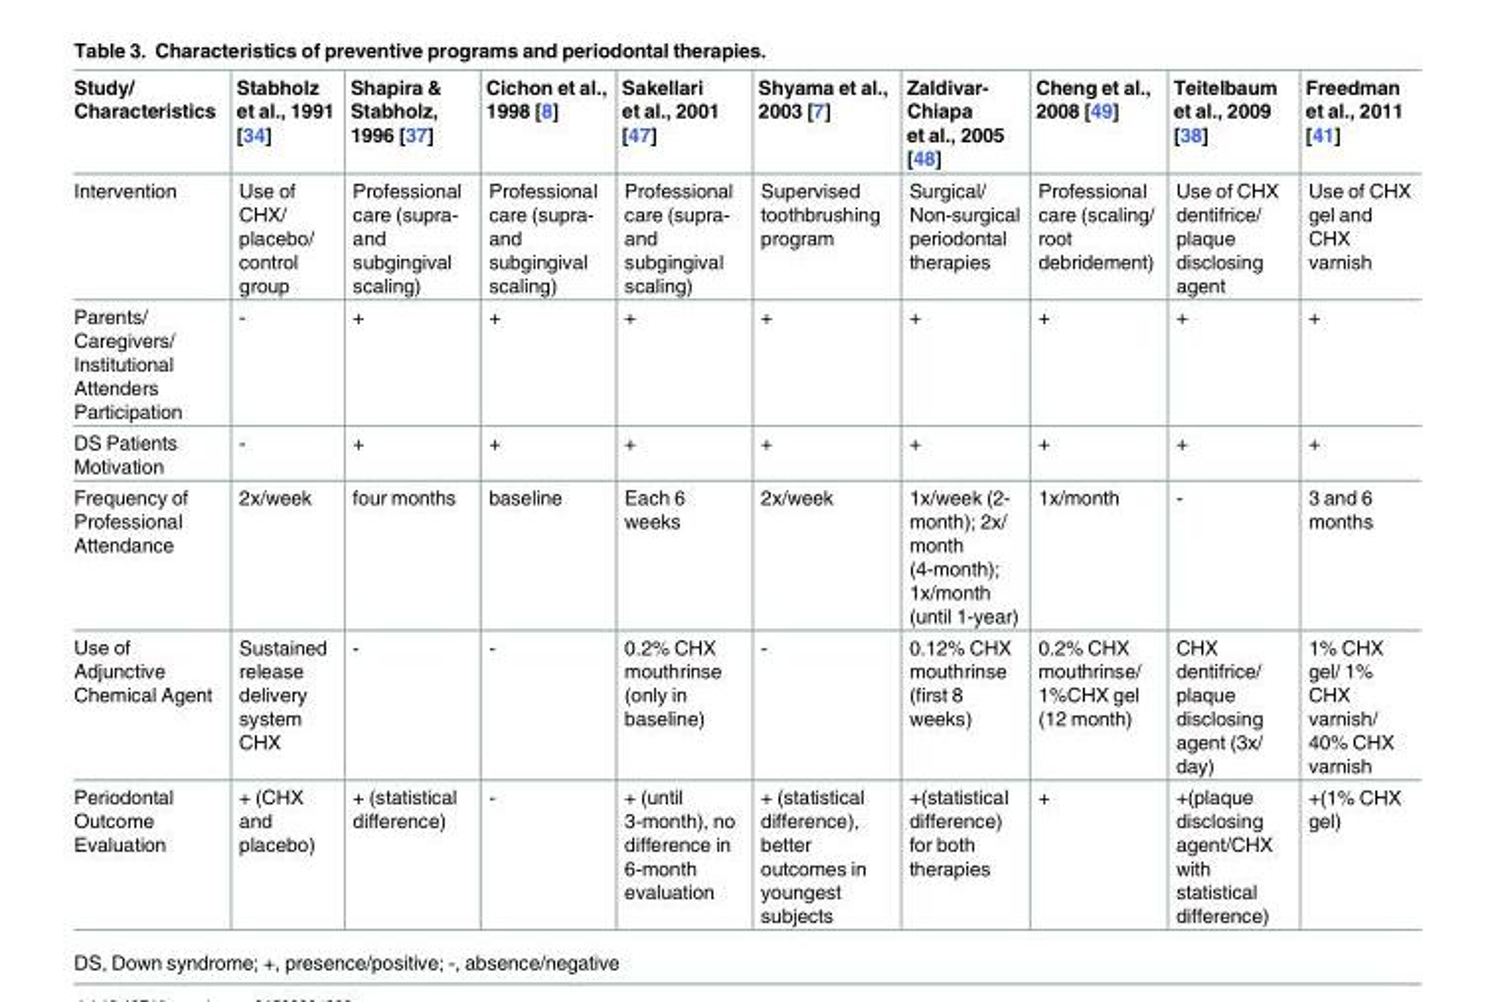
<table><thead><tr><td>Study/ Characteristics</td><td>Stabholz et al., 1991 [34]</td><td>Shapira &amp; Stabholz, 1996 [37]</td><td>Cichon et al., 1998 [8]</td><td>Sakellari et al., 2001 [47]</td><td>Shyama et al., 2003 [7]</td><td>Zaldivar- Chiapa et al., 2005 [48]</td><td>Cheng et al., 2008 [49]</td><td>Teitelbaum et al., 2009 [38]</td><td>Freedman et al., 2011 [41]</td></tr></thead><tbody><tr><td>Intervention</td><td>Use of CHX/ placebo/ control group</td><td>Professional care (supra- and subgingival scaling)</td><td>Professional care (supra- and subgingival scaling)</td><td>Professional care (supra- and subgingival scaling)</td><td>Supervised toothbrushing program</td><td>Surgical/ Non-surgical periodontal therapies</td><td>Professional care (scaling/ root debridement)</td><td>Use of CHX dentifrice/ plaque disclosing agent</td><td>Use of CHX gel and CHX varnish</td></tr><tr><td>Parents/ Caregivers/ Institutional Attenders Participation</td><td>-</td><td>+</td><td>+</td><td>+</td><td>+</td><td>+</td><td>+</td><td>+</td><td>+</td></tr><tr><td>DS Patients Motivation</td><td>-</td><td>+</td><td>+</td><td>+</td><td>+</td><td>+</td><td>+</td><td>+</td><td>+</td></tr><tr><td>Frequency of Professional Attendance</td><td>2x/week</td><td>four months</td><td>baseline</td><td>Each 6 weeks</td><td>2x/week</td><td>1x/week (2- month); 2x/ month (4-month); 1x/month (until 1-year)</td><td>1x/month</td><td>-</td><td>3 and 6 months</td></tr><tr><td>Use of Adjunctive Chemical Agent</td><td>Sustained release delivery system CHX</td><td>-</td><td>-</td><td>0.2% CHX mouthrinse (only in baseline)</td><td>-</td><td>0.12% CHX mouthrinse (first 8 weeks)</td><td>0.2% CHX mouthrinse/ 1%CHX gel (12 month)</td><td>CHX dentifrice/ plaque disclosing agent (3x/ day)</td><td>1% CHX gel/ 1% CHX varnish/ 40% CHX varnish</td></tr><tr><td>Periodontal Outcome Evaluation</td><td>+ (CHX and placebo)</td><td>+ (statistical difference)</td><td>-</td><td>+ (until 3-month), no difference in 6-month evaluation</td><td>+ (statistical difference), better outcomes in youngest subjects</td><td>+(statistical difference) for both therapies</td><td>+</td><td>+(plaque disclosing agent/CHX with statistical difference)</td><td>+(1% CHX gel)</td></tr></tbody></table>